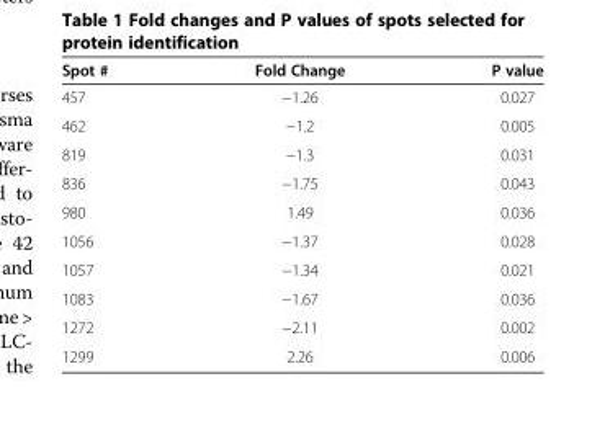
<table><thead><tr><td>Spot #</td><td>Fold Change</td><td>P value</td></tr></thead><tbody><tr><td>457</td><td>−1.26</td><td>0.027</td></tr><tr><td>462</td><td>−1.2</td><td>0.005</td></tr><tr><td>819</td><td>−1.3</td><td>0.031</td></tr><tr><td>836</td><td>−1.75</td><td>0.043</td></tr><tr><td>980</td><td>1.49</td><td>0.036</td></tr><tr><td>1056</td><td>−1.37</td><td>0.028</td></tr><tr><td>1057</td><td>−1.34</td><td>0.021</td></tr><tr><td>1083</td><td>−1.67</td><td>0.036</td></tr><tr><td>1272</td><td>−2.11</td><td>0.002</td></tr><tr><td>1299</td><td>2.26</td><td>0.006</td></tr></tbody></table>